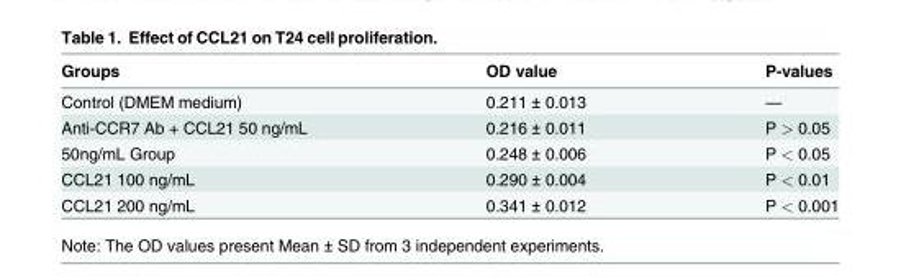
<table><thead><tr><td>Groups</td><td>OD value</td><td>P-values</td></tr></thead><tbody><tr><td>Control (DMEM medium)</td><td>0.211 ± 0.013</td><td>—</td></tr><tr><td>Anti-CCR7 Ab + CCL21 50 ng/mL</td><td>0.216 ± 0.011</td><td>P &gt; 0.05</td></tr><tr><td>50ng/mL Group</td><td>0.248 ± 0.006</td><td>P &lt; 0.05</td></tr><tr><td>CCL21 100 ng/mL</td><td>0.290 ± 0.004</td><td>P &lt; 0.01</td></tr><tr><td>CCL21 200 ng/mL</td><td>0.341 ± 0.012</td><td>P &lt; 0.001</td></tr></tbody></table>